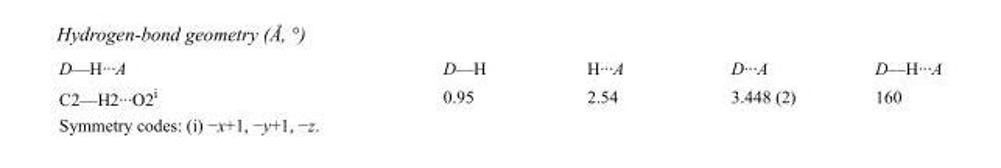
<table><tbody><tr><td>D—H···A</td><td>D—H</td><td>H···A</td><td>D···A</td><td>D—H···A</td></tr><tr><td>C2—H2···O2<sup>i</sup></td><td>0.95</td><td>2.54</td><td>3.448 (2)</td><td>160</td></tr></tbody></table>